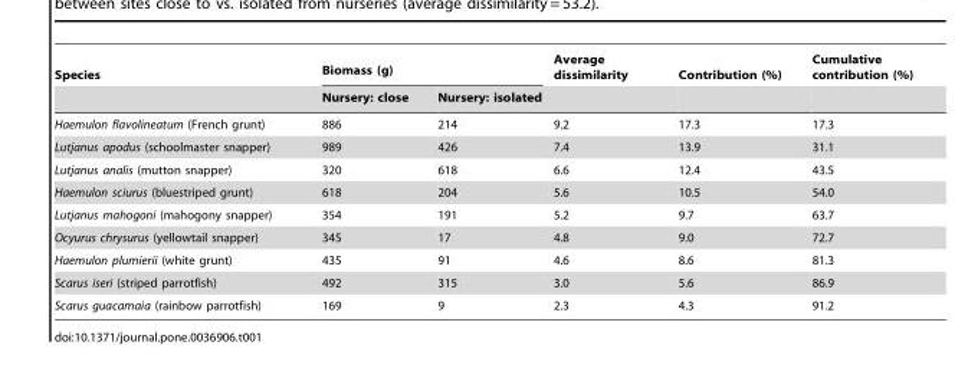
<table><thead><tr><td rowspan="2">Species</td><td colspan="2">Biomass (g)</td><td rowspan="2">Average dissimilarity</td><td rowspan="2">Contribution (%)</td><td rowspan="2">Cumulative contribution (%)</td></tr><tr><td>Nursery: close</td><td>Nursery: isolated</td></tr></thead><tbody><tr><td>Haemulon flavolineatum (French grunt)</td><td>886</td><td>214</td><td>9.2</td><td>17.3</td><td>17.3</td></tr><tr><td>Lutjanus apodus (schoolmaster snapper)</td><td>989</td><td>426</td><td>7.4</td><td>13.9</td><td>31.1</td></tr><tr><td>Lutjanus analis (mutton snapper)</td><td>320</td><td>618</td><td>6.6</td><td>12.4</td><td>43.5</td></tr><tr><td>Haemulon sciurus (bluestriped grunt)</td><td>618</td><td>204</td><td>5.6</td><td>10.5</td><td>54.0</td></tr><tr><td>Lutjanus mahogoni (mahogony snapper)</td><td>354</td><td>191</td><td>5.2</td><td>9.7</td><td>63.7</td></tr><tr><td>Ocyurus chrysurus (yellowtail snapper)</td><td>345</td><td>17</td><td>4.8</td><td>9.0</td><td>72.7</td></tr><tr><td>Haemulon plumierii (white grunt)</td><td>435</td><td>91</td><td>4.6</td><td>8.6</td><td>81.3</td></tr><tr><td>Scarus iseri (striped parrotfish)</td><td>492</td><td>315</td><td>3.0</td><td>5.6</td><td>86.9</td></tr><tr><td>Scarus guacamaia (rainbow parrotfish)</td><td>169</td><td>9</td><td>2.3</td><td>4.3</td><td>91.2</td></tr></tbody></table>